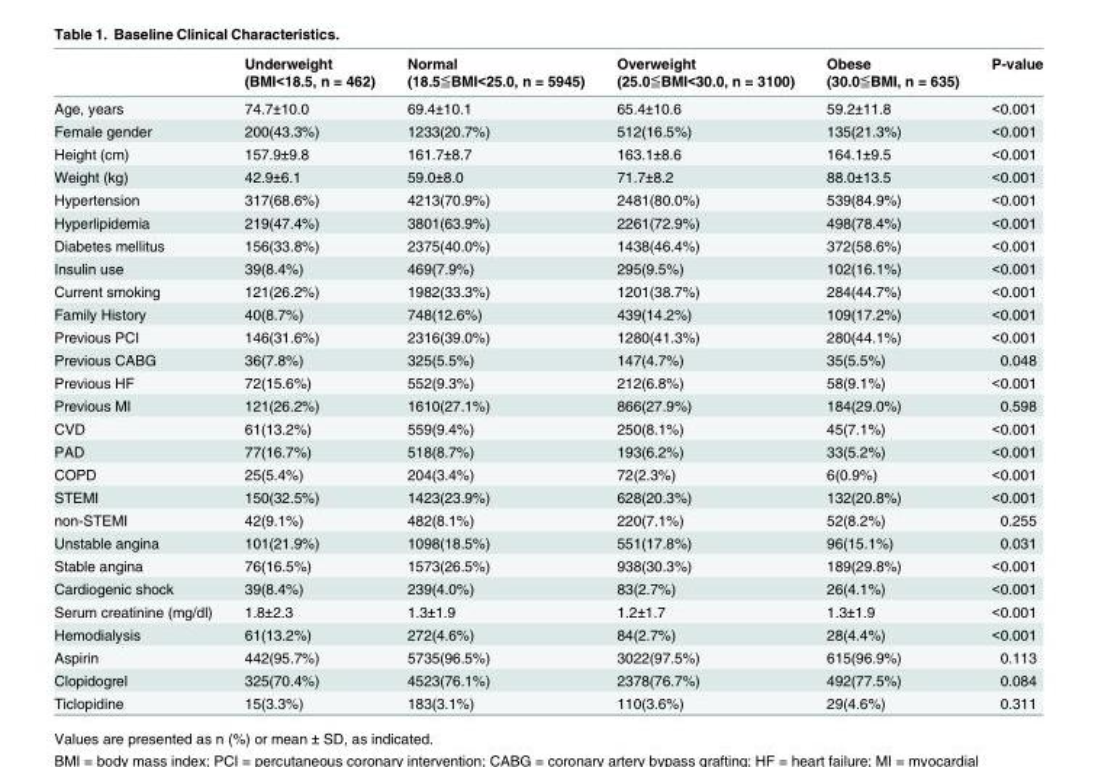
<table><thead><tr><td></td><td>Underweight (BMI&lt;18.5, n = 462)</td><td>Normal (18.5≦BMI&lt;25.0, n = 5945)</td><td>Overweight (25.0≦BMI&lt;30.0, n = 3100)</td><td>Obese (30.0≦BMI, n = 635)</td><td>P-value</td></tr></thead><tbody><tr><td>Age, years</td><td>74.7±10.0</td><td>69.4±10.1</td><td>65.4±10.6</td><td>59.2±11.8</td><td>&lt;0.001</td></tr><tr><td>Female gender</td><td>200(43.3%)</td><td>1233(20.7%)</td><td>512(16.5%)</td><td>135(21.3%)</td><td>&lt;0.001</td></tr><tr><td>Height (cm)</td><td>157.9±9.8</td><td>161.7±8.7</td><td>163.1±8.6</td><td>164.1±9.5</td><td>&lt;0.001</td></tr><tr><td>Weight (kg)</td><td>42.9±6.1</td><td>59.0±8.0</td><td>71.7±8.2</td><td>88.0±13.5</td><td>&lt;0.001</td></tr><tr><td>Hypertension</td><td>317(68.6%)</td><td>4213(70.9%)</td><td>2481(80.0%)</td><td>539(84.9%)</td><td>&lt;0.001</td></tr><tr><td>Hyperlipidemia</td><td>219(47.4%)</td><td>3801(63.9%)</td><td>2261(72.9%)</td><td>498(78.4%)</td><td>&lt;0.001</td></tr><tr><td>Diabetes mellitus</td><td>156(33.8%)</td><td>2375(40.0%)</td><td>1438(46.4%)</td><td>372(58.6%)</td><td>&lt;0.001</td></tr><tr><td>Insulin use</td><td>39(8.4%)</td><td>469(7.9%)</td><td>295(9.5%)</td><td>102(16.1%)</td><td>&lt;0.001</td></tr><tr><td>Current smoking</td><td>121(26.2%)</td><td>1982(33.3%)</td><td>1201(38.7%)</td><td>284(44.7%)</td><td>&lt;0.001</td></tr><tr><td>Family History</td><td>40(8.7%)</td><td>748(12.6%)</td><td>439(14.2%)</td><td>109(17.2%)</td><td>&lt;0.001</td></tr><tr><td>Previous PCI</td><td>146(31.6%)</td><td>2316(39.0%)</td><td>1280(41.3%)</td><td>280(44.1%)</td><td>&lt;0.001</td></tr><tr><td>Previous CABG</td><td>36(7.8%)</td><td>325(5.5%)</td><td>147(4.7%)</td><td>35(5.5%)</td><td>0.048</td></tr><tr><td>Previous HF</td><td>72(15.6%)</td><td>552(9.3%)</td><td>212(6.8%)</td><td>58(9.1%)</td><td>&lt;0.001</td></tr><tr><td>Previous MI</td><td>121(26.2%)</td><td>1610(27.1%)</td><td>866(27.9%)</td><td>184(29.0%)</td><td>0.598</td></tr><tr><td>CVD</td><td>61(13.2%)</td><td>559(9.4%)</td><td>250(8.1%)</td><td>45(7.1%)</td><td>&lt;0.001</td></tr><tr><td>PAD</td><td>77(16.7%)</td><td>518(8.7%)</td><td>193(6.2%)</td><td>33(5.2%)</td><td>&lt;0.001</td></tr><tr><td>COPD</td><td>25(5.4%)</td><td>204(3.4%)</td><td>72(2.3%)</td><td>6(0.9%)</td><td>&lt;0.001</td></tr><tr><td>STEMI</td><td>150(32.5%)</td><td>1423(23.9%)</td><td>628(20.3%)</td><td>132(20.8%)</td><td>&lt;0.001</td></tr><tr><td>non-STEMI</td><td>42(9.1%)</td><td>482(8.1%)</td><td>220(7.1%)</td><td>52(8.2%)</td><td>0.255</td></tr><tr><td>Unstable angina</td><td>101(21.9%)</td><td>1098(18.5%)</td><td>551(17.8%)</td><td>96(15.1%)</td><td>0.031</td></tr><tr><td>Stable angina</td><td>76(16.5%)</td><td>1573(26.5%)</td><td>938(30.3%)</td><td>189(29.8%)</td><td>&lt;0.001</td></tr><tr><td>Cardiogenic shock</td><td>39(8.4%)</td><td>239(4.0%)</td><td>83(2.7%)</td><td>26(4.1%)</td><td>&lt;0.001</td></tr><tr><td>Serum creatinine (mg/dl)</td><td>1.8±2.3</td><td>1.3±1.9</td><td>1.2±1.7</td><td>1.3±1.9</td><td>&lt;0.001</td></tr><tr><td>Hemodialysis</td><td>61(13.2%)</td><td>272(4.6%)</td><td>84(2.7%)</td><td>28(4.4%)</td><td>&lt;0.001</td></tr><tr><td>Aspirin</td><td>442(95.7%)</td><td>5735(96.5%)</td><td>3022(97.5%)</td><td>615(96.9%)</td><td>0.113</td></tr><tr><td>Clopidogrel</td><td>325(70.4%)</td><td>4523(76.1%)</td><td>2378(76.7%)</td><td>492(77.5%)</td><td>0.084</td></tr><tr><td>Ticlopidine</td><td>15(3.3%)</td><td>183(3.1%)</td><td>110(3.6%)</td><td>29(4.6%)</td><td>0.311</td></tr></tbody></table>